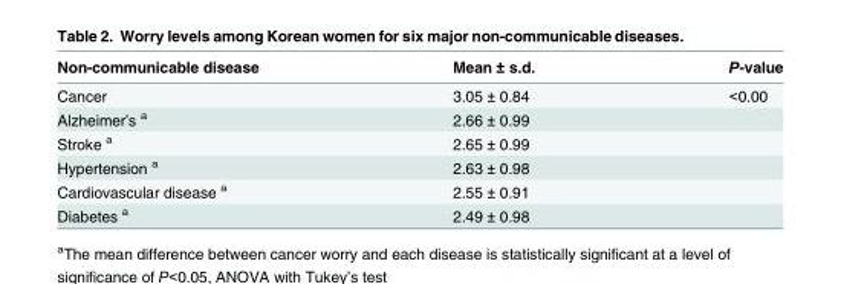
<table><thead><tr><td>Non-communicable disease</td><td>Mean ± s.d.</td><td>P-value</td></tr></thead><tbody><tr><td>Cancer</td><td>3.05 ± 0.84</td><td>&lt;0.00</td></tr><tr><td>Alzheimer’s <sup>a</sup></td><td>2.66 ± 0.99</td><td></td></tr><tr><td>Stroke <sup>a</sup></td><td>2.65 ± 0.99</td><td></td></tr><tr><td>Hypertension <sup>a</sup></td><td>2.63 ± 0.98</td><td></td></tr><tr><td>Cardiovascular disease <sup>a</sup></td><td>2.55 ± 0.91</td><td></td></tr><tr><td>Diabetes <sup>a</sup></td><td>2.49 ± 0.98</td><td></td></tr></tbody></table>